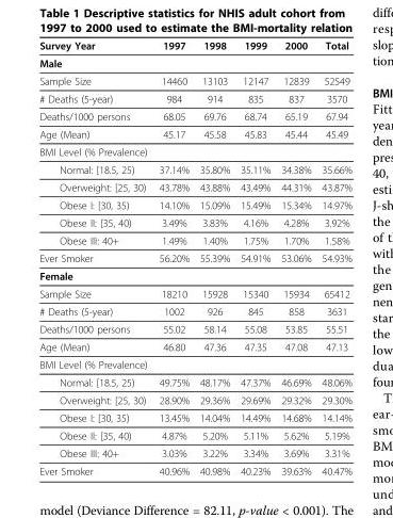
<table><thead><tr><td>Survey Year</td><td>1997</td><td>1998</td><td>1999</td><td>2000</td><td>Total</td></tr></thead><tbody><tr><td colspan="6">Male</td></tr><tr><td>Sample Size</td><td>14460</td><td>13103</td><td>12147</td><td>12839</td><td>52549</td></tr><tr><td># Deaths (5-year)</td><td>984</td><td>914</td><td>835</td><td>837</td><td>3570</td></tr><tr><td>Deaths/1000 persons</td><td>68.05</td><td>69.76</td><td>68.74</td><td>65.19</td><td>67.94</td></tr><tr><td>Age (Mean)</td><td>45.17</td><td>45.58</td><td>45.83</td><td>45.44</td><td>45.49</td></tr><tr><td colspan="6">BMI Level (% Prevalence)</td></tr><tr><td>Normal: [18.5, 25)</td><td>37.14%</td><td>35.80%</td><td>35.11%</td><td>34.38%</td><td>35.66%</td></tr><tr><td>Overweight: [25, 30)</td><td>43.78%</td><td>43.88%</td><td>43.49%</td><td>44.31%</td><td>43.87%</td></tr><tr><td>Obese I: [30, 35)</td><td>14.10%</td><td>15.09%</td><td>15.49%</td><td>15.34%</td><td>14.97%</td></tr><tr><td>Obese II: [35, 40)</td><td>3.49%</td><td>3.83%</td><td>4.16%</td><td>4.28%</td><td>3.92%</td></tr><tr><td>Obese III: 40+</td><td>1.49%</td><td>1.40%</td><td>1.75%</td><td>1.70%</td><td>1.58%</td></tr><tr><td>Ever Smoker</td><td>56.20%</td><td>55.39%</td><td>54.91%</td><td>53.06%</td><td>54.93%</td></tr><tr><td colspan="6">Female</td></tr><tr><td>Sample Size</td><td>18210</td><td>15928</td><td>15340</td><td>15934</td><td>65412</td></tr><tr><td># Deaths (5-year)</td><td>1002</td><td>926</td><td>845</td><td>858</td><td>3631</td></tr><tr><td>Deaths/1000 persons</td><td>55.02</td><td>58.14</td><td>55.08</td><td>53.85</td><td>55.51</td></tr><tr><td>Age (Mean)</td><td>46.80</td><td>47.36</td><td>47.35</td><td>47.08</td><td>47.13</td></tr><tr><td colspan="6">BMI Level (% Prevalence)</td></tr><tr><td>Normal: [18.5, 25)</td><td>49.75%</td><td>48.17%</td><td>47.37%</td><td>46.69%</td><td>48.06%</td></tr><tr><td>Overweight: [25, 30)</td><td>28.90%</td><td>29.36%</td><td>29.69%</td><td>29.32%</td><td>29.30%</td></tr><tr><td>Obese I: [30, 35)</td><td>13.45%</td><td>14.04%</td><td>14.49%</td><td>14.68%</td><td>14.14%</td></tr><tr><td>Obese II: [35, 40)</td><td>4.87%</td><td>5.20%</td><td>5.11%</td><td>5.62%</td><td>5.19%</td></tr><tr><td>Obese III: 40+</td><td>3.03%</td><td>3.22%</td><td>3.34%</td><td>3.69%</td><td>3.31%</td></tr><tr><td>Ever Smoker</td><td>40.96%</td><td>40.98%</td><td>40.23%</td><td>39.63%</td><td>40.47%</td></tr></tbody></table>